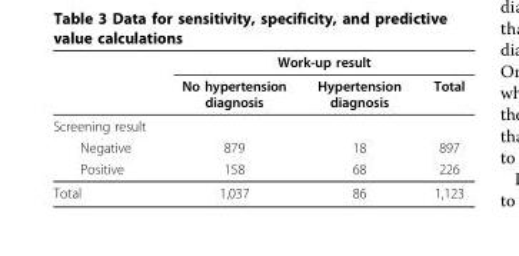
<table><thead><tr><td rowspan="2"></td><td colspan="3">Work-up result</td></tr><tr><td>No hypertension diagnosis</td><td>Hypertension diagnosis</td><td>Total</td></tr></thead><tbody><tr><td colspan="4">Screening result</td></tr><tr><td>Negative</td><td>879</td><td>18</td><td>897</td></tr><tr><td>Positive</td><td>158</td><td>68</td><td>226</td></tr><tr><td>Total</td><td>1,037</td><td>86</td><td>1,123</td></tr></tbody></table>